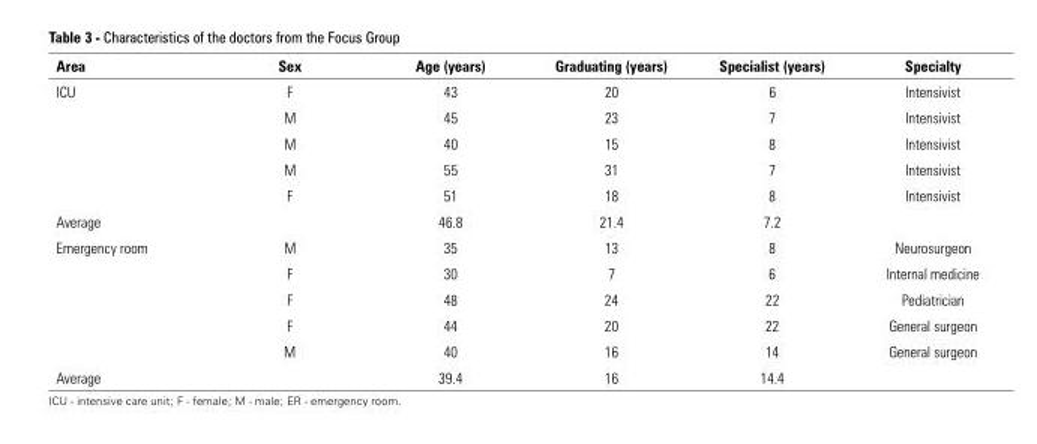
<table><thead><tr><td>Area</td><td>Sex</td><td>Age (years)</td><td>Graduating (years)</td><td>Specialist (years)</td><td>Specialty</td></tr></thead><tbody><tr><td rowspan="5">ICU</td><td>F</td><td>43</td><td>20</td><td>6</td><td>Intensivist</td></tr><tr><td>M</td><td>45</td><td>23</td><td>7</td><td>Intensivist</td></tr><tr><td>M</td><td>40</td><td>15</td><td>8</td><td>Intensivist</td></tr><tr><td>M</td><td>55</td><td>31</td><td>7</td><td>Intensivist</td></tr><tr><td>F</td><td>51</td><td>18</td><td>8</td><td>Intensivist</td></tr><tr><td>Average</td><td></td><td>46.8</td><td>21.4</td><td>7.2</td><td></td></tr><tr><td rowspan="5">Emergency room</td><td>M</td><td>35</td><td>13</td><td>8</td><td>Neurosurgeon</td></tr><tr><td>F</td><td>30</td><td>7</td><td>6</td><td>Internal medicine</td></tr><tr><td>F</td><td>48</td><td>24</td><td>22</td><td>Pediatrician</td></tr><tr><td>F</td><td>44</td><td>20</td><td>22</td><td>General surgeon</td></tr><tr><td>M</td><td>40</td><td>16</td><td>14</td><td>General surgeon</td></tr><tr><td>Average</td><td></td><td>39.4</td><td>16</td><td>14.4</td><td></td></tr></tbody></table>